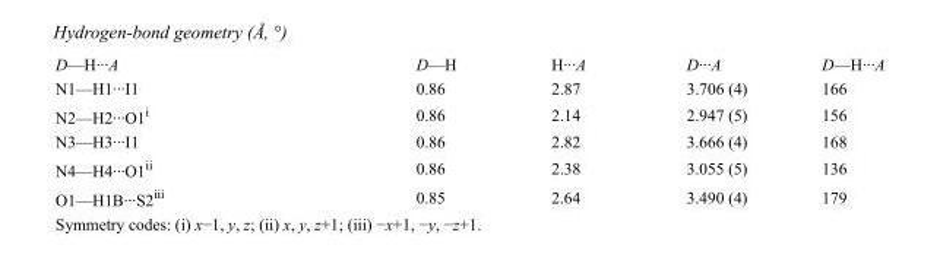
<table><tbody><tr><td>D—H···A</td><td>D—H</td><td>H···A</td><td>D···A</td><td>D—H···A</td></tr><tr><td>N1—H1···I1</td><td>0.86</td><td>2.87</td><td>3.706 (4)</td><td>166</td></tr><tr><td>N2—H2···O1<sup>i</sup></td><td>0.86</td><td>2.14</td><td>2.947 (5)</td><td>156</td></tr><tr><td>N3—H3···I1</td><td>0.86</td><td>2.82</td><td>3.666 (4)</td><td>168</td></tr><tr><td>N4—H4···O1<sup>ii</sup></td><td>0.86</td><td>2.38</td><td>3.055 (5)</td><td>136</td></tr><tr><td>O1—H1B···S2<sup>iii</sup></td><td>0.85</td><td>2.64</td><td>3.490 (4)</td><td>179</td></tr></tbody></table>